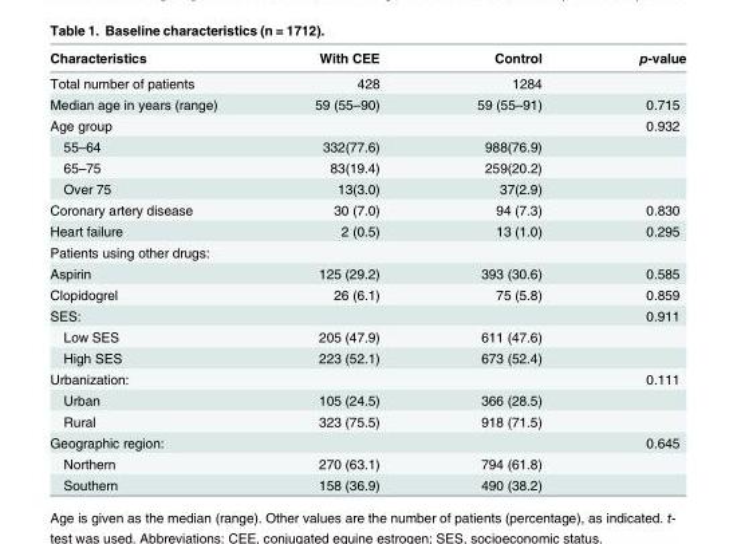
<table><thead><tr><td>Characteristics</td><td>With CEE</td><td>Control</td><td>p-value</td></tr></thead><tbody><tr><td>Total number of patients</td><td>428</td><td>1284</td><td></td></tr><tr><td>Median age in years (range)</td><td>59 (55–90)</td><td>59 (55–91)</td><td>0.715</td></tr><tr><td>Age group</td><td></td><td></td><td>0.932</td></tr><tr><td>55–64</td><td>332(77.6)</td><td>988(76.9)</td><td></td></tr><tr><td>65–75</td><td>83(19.4)</td><td>259(20.2)</td><td></td></tr><tr><td>Over 75</td><td>13(3.0)</td><td>37(2.9)</td><td></td></tr><tr><td>Coronary artery disease</td><td>30 (7.0)</td><td>94 (7.3)</td><td>0.830</td></tr><tr><td>Heart failure</td><td>2 (0.5)</td><td>13 (1.0)</td><td>0.295</td></tr><tr><td colspan="4">Patients using other drugs:</td></tr><tr><td>Aspirin</td><td>125 (29.2)</td><td>393 (30.6)</td><td>0.585</td></tr><tr><td>Clopidogrel</td><td>26 (6.1)</td><td>75 (5.8)</td><td>0.859</td></tr><tr><td>SES:</td><td></td><td></td><td>0.911</td></tr><tr><td>Low SES</td><td>205 (47.9)</td><td>611 (47.6)</td><td></td></tr><tr><td>High SES</td><td>223 (52.1)</td><td>673 (52.4)</td><td></td></tr><tr><td>Urbanization:</td><td></td><td></td><td>0.111</td></tr><tr><td>Urban</td><td>105 (24.5)</td><td>366 (28.5)</td><td></td></tr><tr><td>Rural</td><td>323 (75.5)</td><td>918 (71.5)</td><td></td></tr><tr><td>Geographic region:</td><td></td><td></td><td>0.645</td></tr><tr><td>Northern</td><td>270 (63.1)</td><td>794 (61.8)</td><td></td></tr><tr><td>Southern</td><td>158 (36.9)</td><td>490 (38.2)</td><td></td></tr></tbody></table>